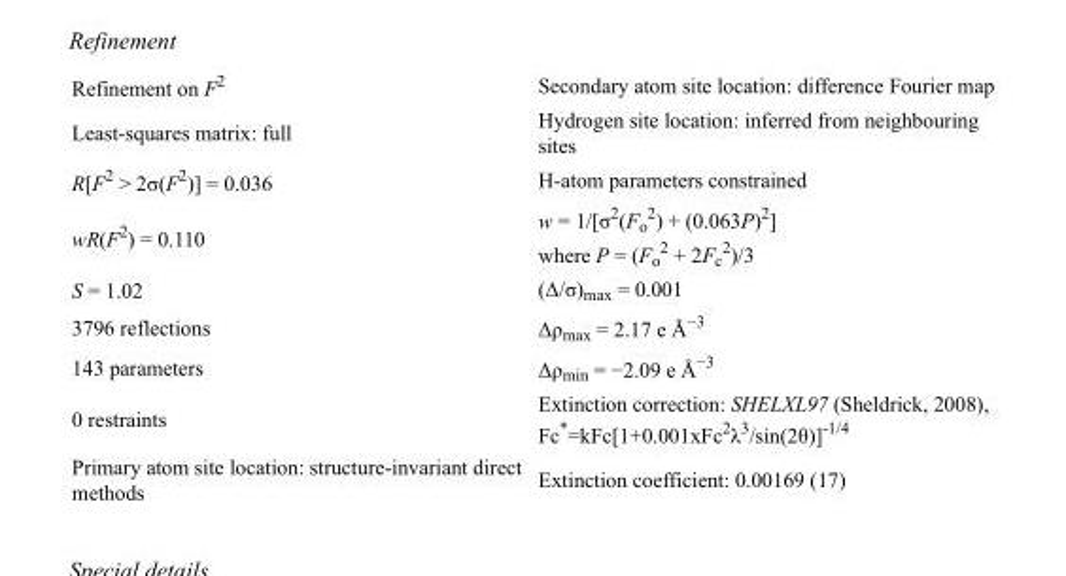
<table><tbody><tr><td>Refinement on F<sup>2</sup></td><td>Secondary atom site location: difference Fourier map</td></tr><tr><td>Least-squares matrix: full</td><td>Hydrogen site location: inferred from neighbouring sites</td></tr><tr><td>R[F<sup>2</sup> &gt; 2σ(F<sup>2</sup>)] = 0.036</td><td>H-atom parameters constrained</td></tr><tr><td>wR(F<sup>2</sup>) = 0.110</td><td>w = 1/[σ<sup>2</sup>(F<sub>o</sub> <sup>2</sup>) + (0.063P)<sup>2</sup>] where P = (F<sub>o</sub> <sup>2</sup> + 2F<sub>c</sub> <sup>2</sup>)/3</td></tr><tr><td>S = 1.02</td><td>(Δ/σ)<sub>max</sub> = 0.001</td></tr><tr><td>3796 reflections</td><td>Δρ<sub>max</sub> = 2.17 e Å<sup>−3</sup></td></tr><tr><td>143 parameters</td><td>Δρ<sub>min</sub> = −2.09 e Å<sup>−3</sup></td></tr><tr><td>0 restraints</td><td>Extinction correction: SHELXL97 (Sheldrick, 2008), Fc*=kFc[1+0.001xFc<sup>2</sup>λ<sup>3</sup>/sin(2θ)]<sup>-1/4</sup></td></tr><tr><td>Primary atom site location: structure-invariant direct methods</td><td>Extinction coefficient: 0.00169 (17)</td></tr></tbody></table>